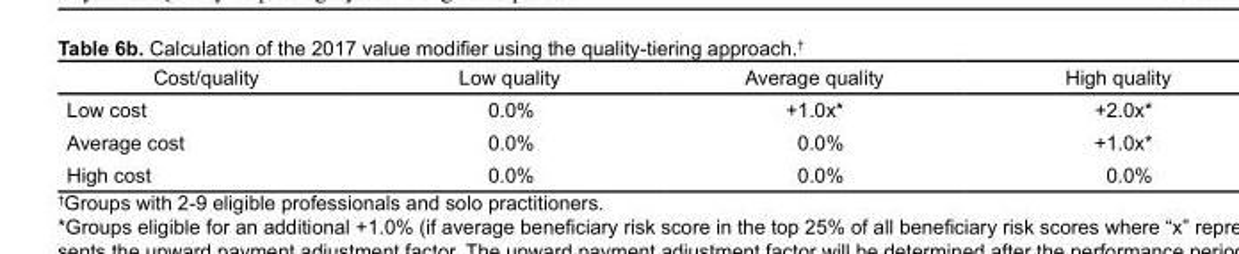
<table><thead><tr><td>Cost/quality</td><td>Low quality</td><td>Average quality</td><td>High quality</td></tr></thead><tbody><tr><td>Low cost</td><td>0.0%</td><td>+1.0x*</td><td>+2.0x*</td></tr><tr><td>Average cost</td><td>0.0%</td><td>0.0%</td><td>+1.0x*</td></tr><tr><td>High cost</td><td>0.0%</td><td>0.0%</td><td>0.0%</td></tr></tbody></table>